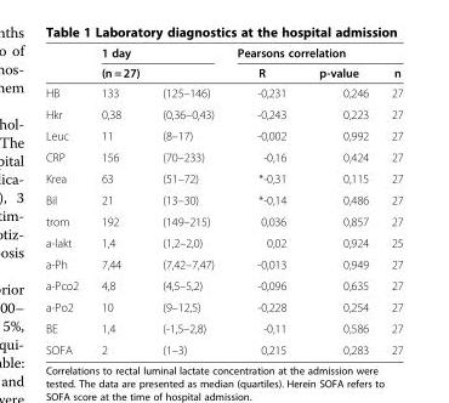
<table><thead><tr><td rowspan="2"></td><td rowspan="2">1 day (n = 27)</td><td rowspan="2"></td><td colspan="2">Pearsons correlation</td><td rowspan="2">n</td></tr><tr><td>R</td><td>p-value</td></tr></thead><tbody><tr><td>HB</td><td>133</td><td>(125–146)</td><td>-0,231</td><td>0,246</td><td>27</td></tr><tr><td>Hkr</td><td>0,38</td><td>(0,36–0,43)</td><td>-0,243</td><td>0,223</td><td>27</td></tr><tr><td>Leuc</td><td>11</td><td>(8–17)</td><td>-0,002</td><td>0,992</td><td>27</td></tr><tr><td>CRP</td><td>156</td><td>(70–233)</td><td>-0,16</td><td>0,424</td><td>27</td></tr><tr><td>Krea</td><td>63</td><td>(51–72)</td><td>*-0,31</td><td>0,115</td><td>27</td></tr><tr><td>Bil</td><td>21</td><td>(13–30)</td><td>*-0,14</td><td>0,486</td><td>27</td></tr><tr><td>trom</td><td>192</td><td>(149–215)</td><td>0,036</td><td>0,857</td><td>27</td></tr><tr><td>a-lakt</td><td>1,4</td><td>(1,2–2,0)</td><td>0,02</td><td>0,924</td><td>25</td></tr><tr><td>a-Ph</td><td>7,44</td><td>(7,42–7,47)</td><td>-0,013</td><td>0,949</td><td>27</td></tr><tr><td>a-Pco2</td><td>4,8</td><td>(4,5–5,2)</td><td>-0,096</td><td>0,635</td><td>27</td></tr><tr><td>a-Po2</td><td>10</td><td>(9–12,5)</td><td>-0,228</td><td>0,254</td><td>27</td></tr><tr><td>BE</td><td>1,4</td><td>(-1,5–2,8)</td><td>-0,11</td><td>0,586</td><td>27</td></tr><tr><td>SOFA</td><td>2</td><td>(1–3)</td><td>0,215</td><td>0,283</td><td>27</td></tr></tbody></table>